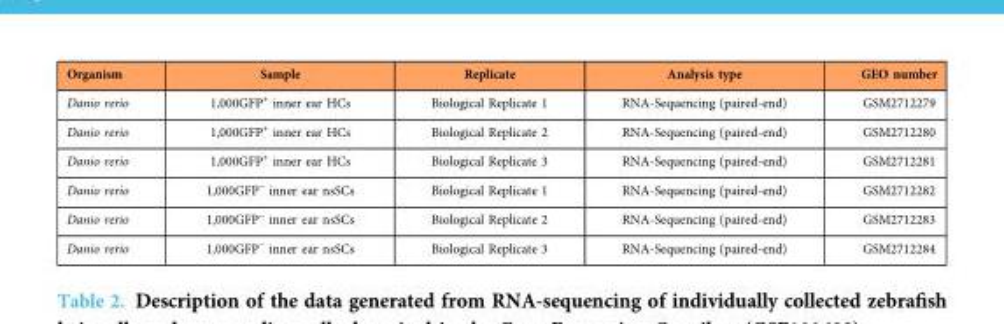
<table><thead><tr><td>Organism</td><td>Sample</td><td>Replicate</td><td>Analysis type</td><td>GEO number</td></tr></thead><tbody><tr><td>Danio rerio</td><td>1,000GFP<sup>+</sup> inner ear HCs</td><td>Biological Replicate 1</td><td>RNA-Sequencing (paired-end)</td><td>GSM2712279</td></tr><tr><td>Danio rerio</td><td>1,000GFP<sup>+</sup> inner ear HCs</td><td>Biological Replicate 2</td><td>RNA-Sequencing (paired-end)</td><td>GSM2712280</td></tr><tr><td>Danio rerio</td><td>1,000GFP<sup>+</sup> inner ear HCs</td><td>Biological Replicate 3</td><td>RNA-Sequencing (paired-end)</td><td>GSM2712281</td></tr><tr><td>Danio rerio</td><td>1,000GFP<sup>−</sup> inner ear nsSCs</td><td>Biological Replicate 1</td><td>RNA-Sequencing (paired-end)</td><td>GSM2712282</td></tr><tr><td>Danio rerio</td><td>1,000GFP<sup>−</sup> inner ear nsSCs</td><td>Biological Replicate 2</td><td>RNA-Sequencing (paired-end)</td><td>GSM2712283</td></tr><tr><td>Danio rerio</td><td>1,000GFP<sup>−</sup> inner ear nsSCs</td><td>Biological Replicate 3</td><td>RNA-Sequencing (paired-end)</td><td>GSM2712284</td></tr></tbody></table>